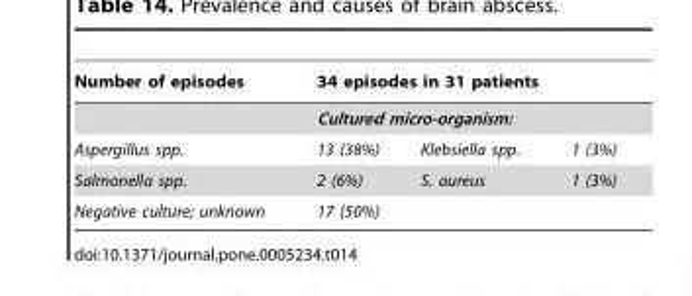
<table><thead><tr><td rowspan="3">Number of episodes Aspergillus spp.</td><td rowspan="2" colspan="3">34 episodes in 31 patients Cultured micro-organism:</td></tr><tr></tr><tr><td>13 (38%)</td><td>Klebsiella spp.</td><td>1 (3%)</td></tr></thead><tbody><tr><td>Salmonella spp.</td><td>2 (6%)</td><td>S. aureus</td><td>1 (3%)</td></tr><tr><td>Negative culture; unknown</td><td>17 (50%)</td><td></td><td></td></tr></tbody></table>